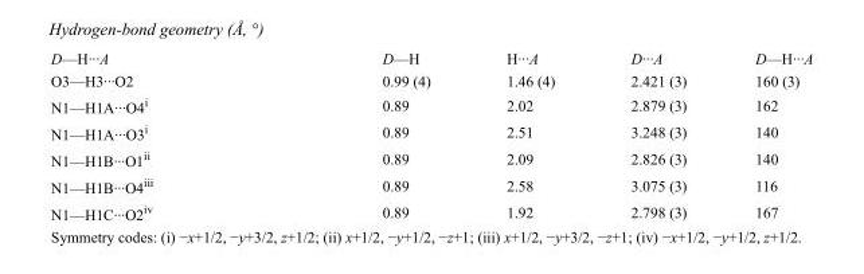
<table><tbody><tr><td>D—H···A</td><td>D—H</td><td>H···A</td><td>D···A</td><td>D—H···A</td></tr><tr><td>O3—H3···O2</td><td>0.99 (4)</td><td>1.46 (4)</td><td>2.421 (3)</td><td>160 (3)</td></tr><tr><td>N1—H1A···O4<sup>i</sup></td><td>0.89</td><td>2.02</td><td>2.879 (3)</td><td>162</td></tr><tr><td>N1—H1A···O3<sup>i</sup></td><td>0.89</td><td>2.51</td><td>3.248 (3)</td><td>140</td></tr><tr><td>N1—H1B···O1<sup>ii</sup></td><td>0.89</td><td>2.09</td><td>2.826 (3)</td><td>140</td></tr><tr><td>N1—H1B···O4<sup>iii</sup></td><td>0.89</td><td>2.58</td><td>3.075 (3)</td><td>116</td></tr><tr><td>N1—H1C···O2<sup>iv</sup></td><td>0.89</td><td>1.92</td><td>2.798 (3)</td><td>167</td></tr></tbody></table>